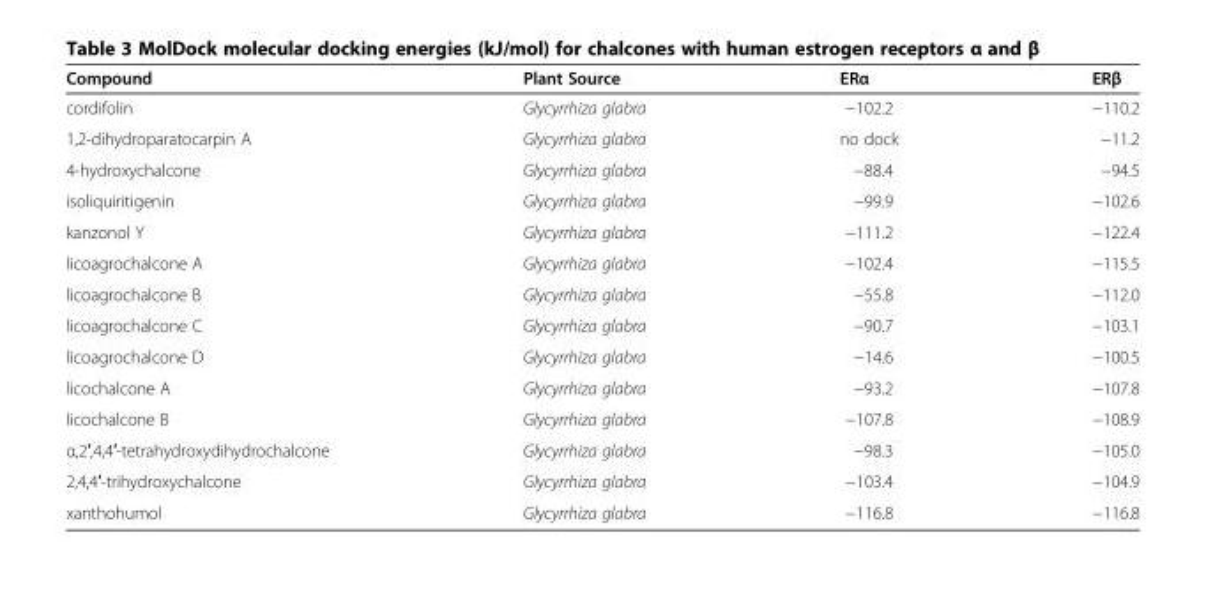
<table><thead><tr><td>Compound</td><td>Plant Source</td><td>ERα</td><td>ERβ</td></tr></thead><tbody><tr><td>cordifolin</td><td>Glycyrrhiza glabra</td><td>−102.2</td><td>−110.2</td></tr><tr><td>1,2-dihydroparatocarpin A</td><td>Glycyrrhiza glabra</td><td>no dock</td><td>−11.2</td></tr><tr><td>4-hydroxychalcone</td><td>Glycyrrhiza glabra</td><td>−88.4</td><td>−94.5</td></tr><tr><td>isoliquiritigenin</td><td>Glycyrrhiza glabra</td><td>−99.9</td><td>−102.6</td></tr><tr><td>kanzonol Y</td><td>Glycyrrhiza glabra</td><td>−111.2</td><td>−122.4</td></tr><tr><td>licoagrochalcone A</td><td>Glycyrrhiza glabra</td><td>−102.4</td><td>−115.5</td></tr><tr><td>licoagrochalcone B</td><td>Glycyrrhiza glabra</td><td>−55.8</td><td>−112.0</td></tr><tr><td>licoagrochalcone C</td><td>Glycyrrhiza glabra</td><td>−90.7</td><td>−103.1</td></tr><tr><td>licoagrochalcone D</td><td>Glycyrrhiza glabra</td><td>−14.6</td><td>−100.5</td></tr><tr><td>licochalcone A</td><td>Glycyrrhiza glabra</td><td>−93.2</td><td>−107.8</td></tr><tr><td>licochalcone B</td><td>Glycyrrhiza glabra</td><td>−107.8</td><td>−108.9</td></tr><tr><td>α,2′,4,4′-tetrahydroxydihydrochalcone</td><td>Glycyrrhiza glabra</td><td>−98.3</td><td>−105.0</td></tr><tr><td>2,4,4′-trihydroxychalcone</td><td>Glycyrrhiza glabra</td><td>−103.4</td><td>−104.9</td></tr><tr><td>xanthohumol</td><td>Glycyrrhiza glabra</td><td>−116.8</td><td>−116.8</td></tr></tbody></table>